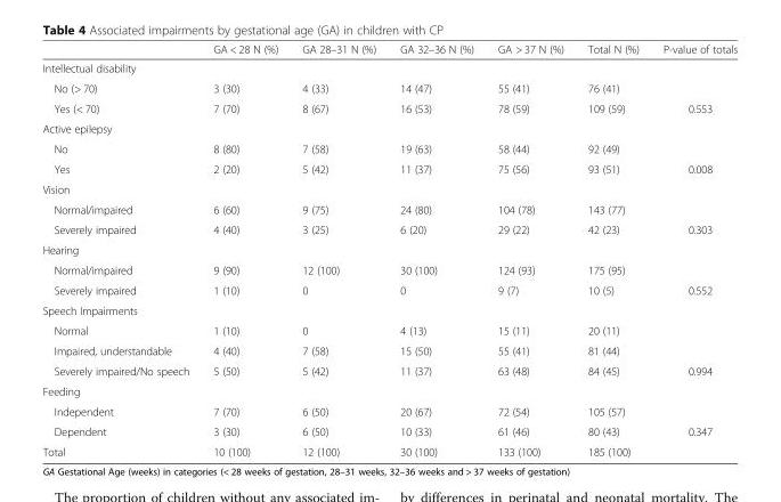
<table><thead><tr><td></td><td>GA &lt; 28 N (%)</td><td>GA 28–31 N (%)</td><td>GA 32–36 N (%)</td><td>GA &gt; 37 N (%)</td><td>Total N (%)</td><td>P-value of totals</td></tr></thead><tbody><tr><td colspan="7">Intellectual disability</td></tr><tr><td>No (&gt; 70)</td><td>3 (30)</td><td>4 (33)</td><td>14 (47)</td><td>55 (41)</td><td>76 (41)</td><td></td></tr><tr><td>Yes (&lt; 70)</td><td>7 (70)</td><td>8 (67)</td><td>16 (53)</td><td>78 (59)</td><td>109 (59)</td><td>0.553</td></tr><tr><td colspan="7">Active epilepsy</td></tr><tr><td>No</td><td>8 (80)</td><td>7 (58)</td><td>19 (63)</td><td>58 (44)</td><td>92 (49)</td><td></td></tr><tr><td>Yes</td><td>2 (20)</td><td>5 (42)</td><td>11 (37)</td><td>75 (56)</td><td>93 (51)</td><td>0.008</td></tr><tr><td colspan="7">Vision</td></tr><tr><td>Normal/impaired</td><td>6 (60)</td><td>9 (75)</td><td>24 (80)</td><td>104 (78)</td><td>143 (77)</td><td></td></tr><tr><td>Severely impaired</td><td>4 (40)</td><td>3 (25)</td><td>6 (20)</td><td>29 (22)</td><td>42 (23)</td><td>0.303</td></tr><tr><td colspan="7">Hearing</td></tr><tr><td>Normal/impaired</td><td>9 (90)</td><td>12 (100)</td><td>30 (100)</td><td>124 (93)</td><td>175 (95)</td><td></td></tr><tr><td>Severely impaired</td><td>1 (10)</td><td>0</td><td>0</td><td>9 (7)</td><td>10 (5)</td><td>0.552</td></tr><tr><td colspan="7">Speech Impairments</td></tr><tr><td>Normal</td><td>1 (10)</td><td>0</td><td>4 (13)</td><td>15 (11)</td><td>20 (11)</td><td></td></tr><tr><td>Impaired, understandable</td><td>4 (40)</td><td>7 (58)</td><td>15 (50)</td><td>55 (41)</td><td>81 (44)</td><td></td></tr><tr><td>Severely impaired/No speech</td><td>5 (50)</td><td>5 (42)</td><td>11 (37)</td><td>63 (48)</td><td>84 (45)</td><td>0.994</td></tr><tr><td colspan="7">Feeding</td></tr><tr><td>Independent</td><td>7 (70)</td><td>6 (50)</td><td>20 (67)</td><td>72 (54)</td><td>105 (57)</td><td></td></tr><tr><td>Dependent</td><td>3 (30)</td><td>6 (50)</td><td>10 (33)</td><td>61 (46)</td><td>80 (43)</td><td>0.347</td></tr><tr><td>Total</td><td>10 (100)</td><td>12 (100)</td><td>30 (100)</td><td>133 (100)</td><td>185 (100)</td><td></td></tr></tbody></table>